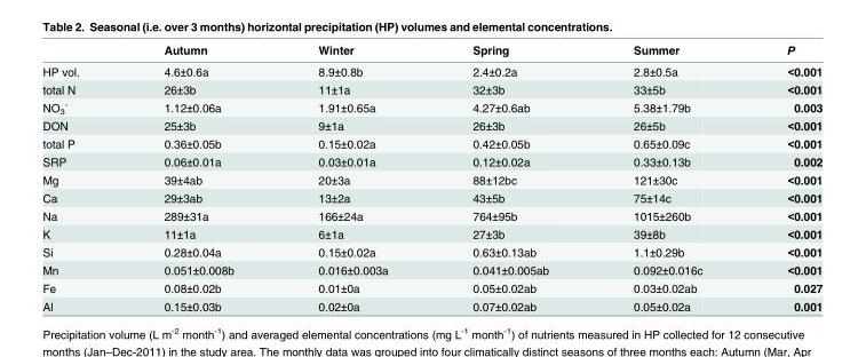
<table><thead><tr><td></td><td>Autumn</td><td>Winter</td><td>Spring</td><td>Summer</td><td>P</td></tr></thead><tbody><tr><td>HP vol.</td><td>4.6±0.6a</td><td>8.9±0.8b</td><td>2.4±0.2a</td><td>2.8±0.5a</td><td>&lt;0.001</td></tr><tr><td>total N</td><td>26±3b</td><td>11±1a</td><td>32±3b</td><td>33±5b</td><td>&lt;0.001</td></tr><tr><td>NO<sub>3</sub> <sup>-</sup></td><td>1.12±0.06a</td><td>1.91±0.65a</td><td>4.27±0.6ab</td><td>5.38±1.79b</td><td>0.003</td></tr><tr><td>DON</td><td>25±3b</td><td>9±1a</td><td>26±3b</td><td>26±5b</td><td>&lt;0.001</td></tr><tr><td>total P</td><td>0.36±0.05b</td><td>0.15±0.02a</td><td>0.42±0.05b</td><td>0.65±0.09c</td><td>&lt;0.001</td></tr><tr><td>SRP</td><td>0.06±0.01a</td><td>0.03±0.01a</td><td>0.12±0.02a</td><td>0.33±0.13b</td><td>0.002</td></tr><tr><td>Mg</td><td>39±4ab</td><td>20±3a</td><td>88±12bc</td><td>121±30c</td><td>&lt;0.001</td></tr><tr><td>Ca</td><td>29±3ab</td><td>13±2a</td><td>43±5b</td><td>75±14c</td><td>&lt;0.001</td></tr><tr><td>Na</td><td>289±31a</td><td>166±24a</td><td>764±95b</td><td>1015±260b</td><td>&lt;0.001</td></tr><tr><td>K</td><td>11±1a</td><td>6±1a</td><td>27±3b</td><td>39±8b</td><td>&lt;0.001</td></tr><tr><td>Si</td><td>0.28±0.04a</td><td>0.15±0.02a</td><td>0.63±0.13ab</td><td>1.1±0.29b</td><td>&lt;0.001</td></tr><tr><td>Mn</td><td>0.051±0.008b</td><td>0.016±0.003a</td><td>0.041±0.005ab</td><td>0.092±0.016c</td><td>&lt;0.001</td></tr><tr><td>Fe</td><td>0.08±0.02b</td><td>0.01±0a</td><td>0.05±0.02ab</td><td>0.03±0.02ab</td><td>0.027</td></tr><tr><td>Al</td><td>0.15±0.03b</td><td>0.02±0a</td><td>0.07±0.02ab</td><td>0.05±0.02a</td><td>0.001</td></tr></tbody></table>